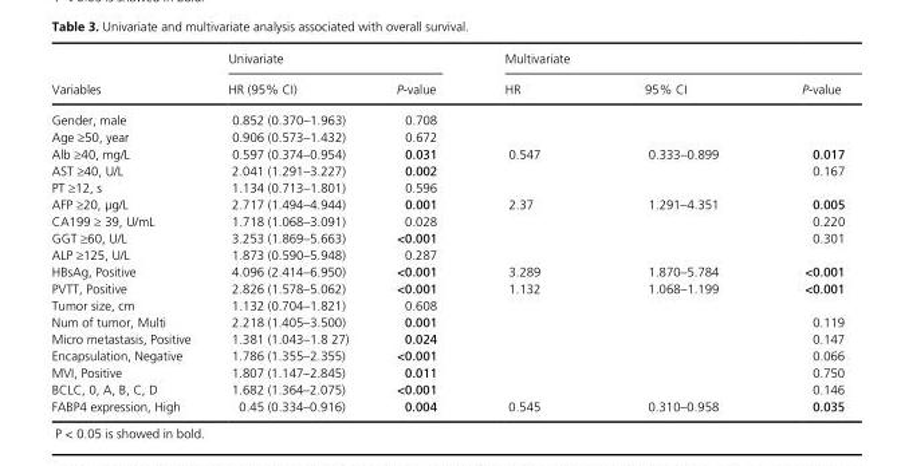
<table><thead><tr><td rowspan="2">Variables</td><td colspan="2">Univariate</td><td colspan="3">Multivariate</td></tr><tr><td>HR (95% CI)</td><td>P- value</td><td>HR</td><td>95% CI</td><td>P- value</td></tr></thead><tbody><tr><td>Gender, male</td><td>0.852 (0.370–1.963)</td><td>0.708</td><td></td><td></td><td></td></tr><tr><td>Age ≥50, year</td><td>0.906 (0.573–1.432)</td><td>0.672</td><td></td><td></td><td></td></tr><tr><td>Alb ≥40, mg/L</td><td>0.597 (0.374–0.954)</td><td>0.031</td><td>0.547</td><td>0.333–0.899</td><td>0.017</td></tr><tr><td>AST ≥40, U/L</td><td>2.041 (1.291–3.227)</td><td>0.002</td><td></td><td></td><td>0.167</td></tr><tr><td>PT ≥12, s</td><td>1.134 (0.713–1.801)</td><td>0.596</td><td></td><td></td><td></td></tr><tr><td>AFP ≥20, μg/L</td><td>2.717 (1.494–4.944)</td><td>0.001</td><td>2.37</td><td>1.291–4.351</td><td>0.005</td></tr><tr><td>CA199 ≥ 39, U/mL</td><td>1.718 (1.068–3.091)</td><td>0.028</td><td></td><td></td><td>0.220</td></tr><tr><td>GGT ≥60, U/L</td><td>3.253 (1.869–5.663)</td><td>&lt;0.001</td><td></td><td></td><td>0.301</td></tr><tr><td>ALP ≥125, U/L</td><td>1.873 (0.590–5.948)</td><td>0.287</td><td></td><td></td><td></td></tr><tr><td>HBsAg, Positive</td><td>4.096 (2.414–6.950)</td><td>&lt;0.001</td><td>3.289</td><td>1.870–5.784</td><td>&lt;0.001</td></tr><tr><td>PVTT, Positive</td><td>2.826 (1.578–5.062)</td><td>&lt;0.001</td><td>1.132</td><td>1.068–1.199</td><td>&lt;0.001</td></tr><tr><td>Tumor size, cm</td><td>1.132 (0.704–1.821)</td><td>0.608</td><td></td><td></td><td></td></tr><tr><td>Num of tumor, Multi</td><td>2.218 (1.405–3.500)</td><td>0.001</td><td></td><td></td><td>0.119</td></tr><tr><td>Micro metastasis, Positive</td><td>1.381 (1.043–1.8 27)</td><td>0.024</td><td></td><td></td><td>0.147</td></tr><tr><td>Encapsulation, Negative</td><td>1.786 (1.355–2.355)</td><td>&lt;0.001</td><td></td><td></td><td>0.066</td></tr><tr><td>MVI, Positive</td><td>1.807 (1.147–2.845)</td><td>0.011</td><td></td><td></td><td>0.750</td></tr><tr><td>BCLC, 0, A, B, C, D</td><td>1.682 (1.364–2.075)</td><td>&lt;0.001</td><td></td><td></td><td>0.146</td></tr><tr><td>FABP4 expression, High</td><td>0.45 (0.334–0.916)</td><td>0.004</td><td>0.545</td><td>0.310–0.958</td><td>0.035</td></tr></tbody></table>